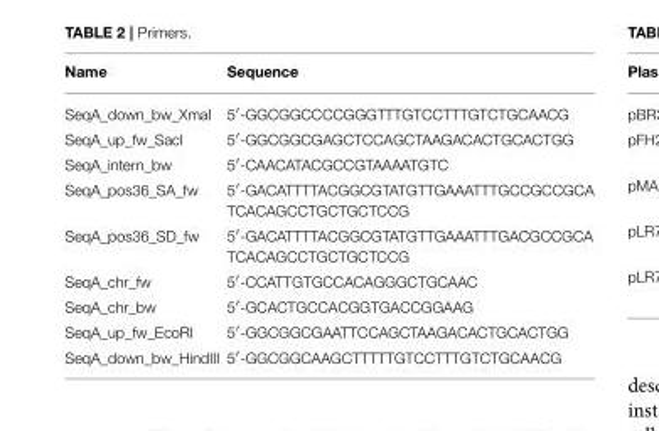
<table><thead><tr><td>Name</td><td>Sequence</td></tr></thead><tbody><tr><td>SeqA_down_bw_XmaI</td><td>5′-GGCGGCCCCGGGTTTGTCCTTTGTCTGCAACG</td></tr><tr><td>SeqA_up_fw_SacI</td><td>5′-GGCGGCGAGCTCCAGCTAAGACACTGCACTGG</td></tr><tr><td>SeqA_intern_bw</td><td>5′-CAACATACGCCGTAAAATGTC</td></tr><tr><td>SeqA_pos36_SA_fw</td><td>5′-GACATTTTACGGCGTATGTTGAAATTTGCCGCCGCA TCACAGCCTGCTGCTCCG</td></tr><tr><td>SeqA_pos36_SD_fw</td><td>5′-GACATTTTACGGCGTATGTTGAAATTTGACGCCGCA TCACAGCCTGCTGCTCCG</td></tr><tr><td>SeqA_chr_fw</td><td>5′-CCATTGTGCCACAGGGCTGCAAC</td></tr><tr><td>SeqA_chr_bw</td><td>5′-GCACTGCCACGGTGACCGGAAG</td></tr><tr><td>SeqA_up_fw_EcoRI</td><td>5′-GGCGGCGAATTCCAGCTAAGACACTGCACTGG</td></tr><tr><td>SeqA_down_bw_HindIII</td><td>5′-GGCGGCAAGCTTTTTGTCCTTTGTCTGCAACG</td></tr></tbody></table>